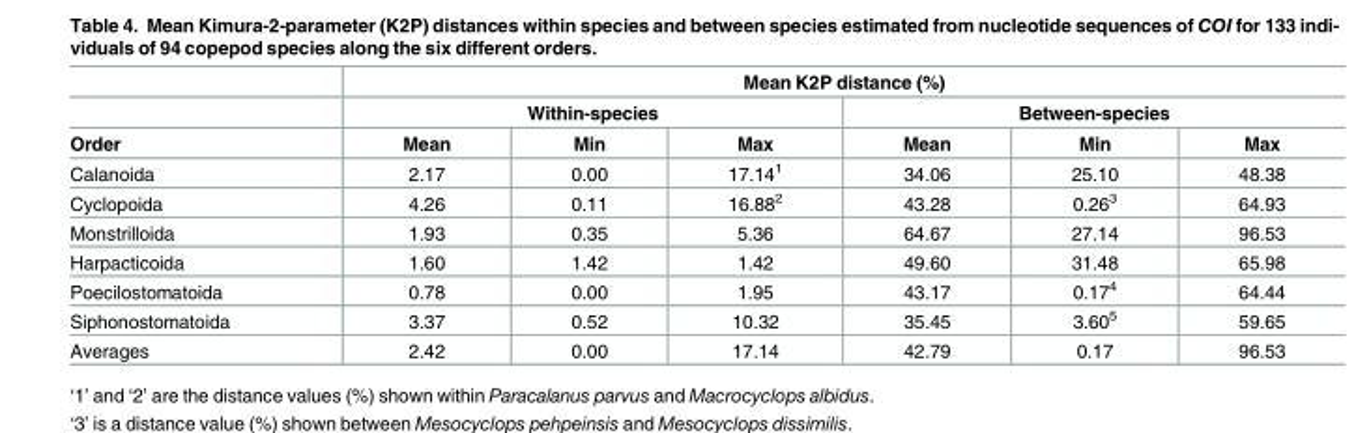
<table><thead><tr><td rowspan="3">Order</td><td colspan="6">Mean K2P distance (%)</td></tr><tr><td colspan="3">Within-species</td><td colspan="3">Between-species</td></tr><tr><td>Mean</td><td>Min</td><td>Max</td><td>Mean</td><td>Min</td><td>Max</td></tr></thead><tbody><tr><td>Calanoida</td><td>2.17</td><td>0.00</td><td>17.14<sup>1</sup></td><td>34.06</td><td>25.10</td><td>48.38</td></tr><tr><td>Cyclopoida</td><td>4.26</td><td>0.11</td><td>16.88<sup>2</sup></td><td>43.28</td><td>0.26<sup>3</sup></td><td>64.93</td></tr><tr><td>Monstrilloida</td><td>1.93</td><td>0.35</td><td>5.36</td><td>64.67</td><td>27.14</td><td>96.53</td></tr><tr><td>Harpacticoida</td><td>1.60</td><td>1.42</td><td>1.42</td><td>49.60</td><td>31.48</td><td>65.98</td></tr><tr><td>Poecilostomatoida</td><td>0.78</td><td>0.00</td><td>1.95</td><td>43.17</td><td>0.17<sup>4</sup></td><td>64.44</td></tr><tr><td>Siphonostomatoida</td><td>3.37</td><td>0.52</td><td>10.32</td><td>35.45</td><td>3.60<sup>5</sup></td><td>59.65</td></tr><tr><td>Averages</td><td>2.42</td><td>0.00</td><td>17.14</td><td>42.79</td><td>0.17</td><td>96.53</td></tr></tbody></table>